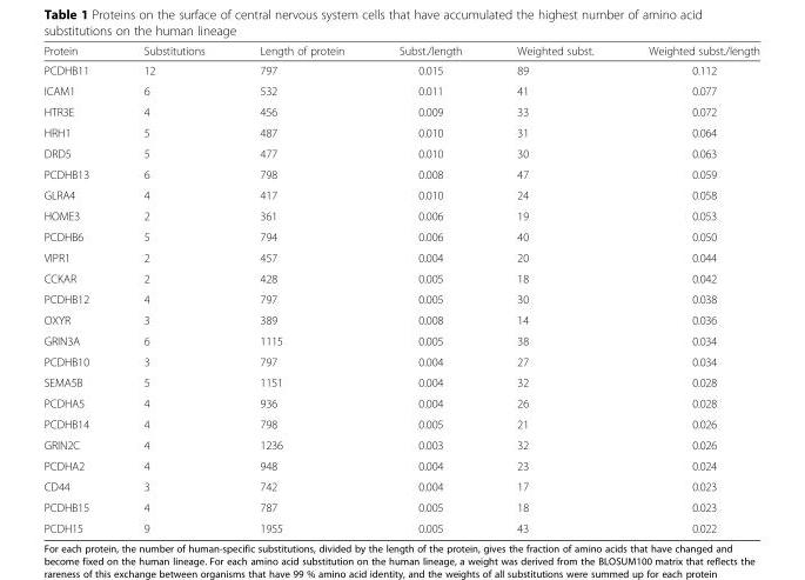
<table><thead><tr><td>Protein</td><td>Substitutions</td><td>Length of protein</td><td>Subst./length</td><td>Weighted subst.</td><td>Weighted subst./length</td></tr></thead><tbody><tr><td>PCDHB11</td><td>12</td><td>797</td><td>0.015</td><td>89</td><td>0.112</td></tr><tr><td>ICAM1</td><td>6</td><td>532</td><td>0.011</td><td>41</td><td>0.077</td></tr><tr><td>HTR3E</td><td>4</td><td>456</td><td>0.009</td><td>33</td><td>0.072</td></tr><tr><td>HRH1</td><td>5</td><td>487</td><td>0.010</td><td>31</td><td>0.064</td></tr><tr><td>DRD5</td><td>5</td><td>477</td><td>0.010</td><td>30</td><td>0.063</td></tr><tr><td>PCDHB13</td><td>6</td><td>798</td><td>0.008</td><td>47</td><td>0.059</td></tr><tr><td>GLRA4</td><td>4</td><td>417</td><td>0.010</td><td>24</td><td>0.058</td></tr><tr><td>HOME3</td><td>2</td><td>361</td><td>0.006</td><td>19</td><td>0.053</td></tr><tr><td>PCDHB6</td><td>5</td><td>794</td><td>0.006</td><td>40</td><td>0.050</td></tr><tr><td>VIPR1</td><td>2</td><td>457</td><td>0.004</td><td>20</td><td>0.044</td></tr><tr><td>CCKAR</td><td>2</td><td>428</td><td>0.005</td><td>18</td><td>0.042</td></tr><tr><td>PCDHB12</td><td>4</td><td>797</td><td>0.005</td><td>30</td><td>0.038</td></tr><tr><td>OXYR</td><td>3</td><td>389</td><td>0.008</td><td>14</td><td>0.036</td></tr><tr><td>GRIN3A</td><td>6</td><td>1115</td><td>0.005</td><td>38</td><td>0.034</td></tr><tr><td>PCDHB10</td><td>3</td><td>797</td><td>0.004</td><td>27</td><td>0.034</td></tr><tr><td>SEMA5B</td><td>5</td><td>1151</td><td>0.004</td><td>32</td><td>0.028</td></tr><tr><td>PCDHA5</td><td>4</td><td>936</td><td>0.004</td><td>26</td><td>0.028</td></tr><tr><td>PCDHB14</td><td>4</td><td>798</td><td>0.005</td><td>21</td><td>0.026</td></tr><tr><td>GRIN2C</td><td>4</td><td>1236</td><td>0.003</td><td>32</td><td>0.026</td></tr><tr><td>PCDHA2</td><td>4</td><td>948</td><td>0.004</td><td>23</td><td>0.024</td></tr><tr><td>CD44</td><td>3</td><td>742</td><td>0.004</td><td>17</td><td>0.023</td></tr><tr><td>PCDHB15</td><td>4</td><td>787</td><td>0.005</td><td>18</td><td>0.023</td></tr><tr><td>PCDH15</td><td>9</td><td>1955</td><td>0.005</td><td>43</td><td>0.022</td></tr></tbody></table>